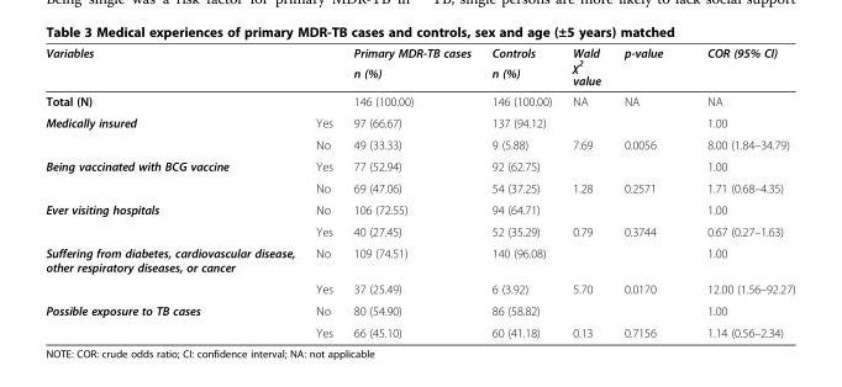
<table><thead><tr><td rowspan="2" colspan="2">Variables</td><td rowspan="3">Primary MDR-TB cases n (%) 146 (100.00)</td><td rowspan="3">Controls n (%) 146 (100.00)</td><td rowspan="3">Wald χ<sup>2</sup> value NA</td><td rowspan="3">p-value NA</td><td rowspan="3">COR (95% CI) NA</td></tr><tr></tr><tr><td>Total (N)</td><td></td></tr></thead><tbody><tr><td rowspan="2">Medically insured</td><td>Yes</td><td>97 (66.67)</td><td>137 (94.12)</td><td></td><td></td><td>1.00</td></tr><tr><td>No</td><td>49 (33.33)</td><td>9 (5.88)</td><td>7.69</td><td>0.0056</td><td>8.00 (1.84–34.79)</td></tr><tr><td rowspan="2">Being vaccinated with BCG vaccine</td><td>Yes</td><td>77 (52.94)</td><td>92 (62.75)</td><td></td><td></td><td>1.00</td></tr><tr><td>No</td><td>69 (47.06)</td><td>54 (37.25)</td><td>1.28</td><td>0.2571</td><td>1.71 (0.68–4.35)</td></tr><tr><td rowspan="2">Ever visiting hospitals</td><td>No</td><td>106 (72.55)</td><td>94 (64.71)</td><td></td><td></td><td>1.00</td></tr><tr><td>Yes</td><td>40 (27.45)</td><td>52 (35.29)</td><td>0.79</td><td>0.3744</td><td>0.67 (0.27–1.63)</td></tr><tr><td rowspan="2">Suffering from diabetes, cardiovascular disease, other respiratory diseases, or cancer</td><td>No</td><td>109 (74.51)</td><td>140 (96.08)</td><td></td><td></td><td>1.00</td></tr><tr><td>Yes</td><td>37 (25.49)</td><td>6 (3.92)</td><td>5.70</td><td>0.0170</td><td>12.00 (1.56–92.27)</td></tr><tr><td rowspan="2">Possible exposure to TB cases</td><td>No</td><td>80 (54.90)</td><td>86 (58.82)</td><td></td><td></td><td>1.00</td></tr><tr><td>Yes</td><td>66 (45.10)</td><td>60 (41.18)</td><td>0.13</td><td>0.7156</td><td>1.14 (0.56–2.34)</td></tr></tbody></table>